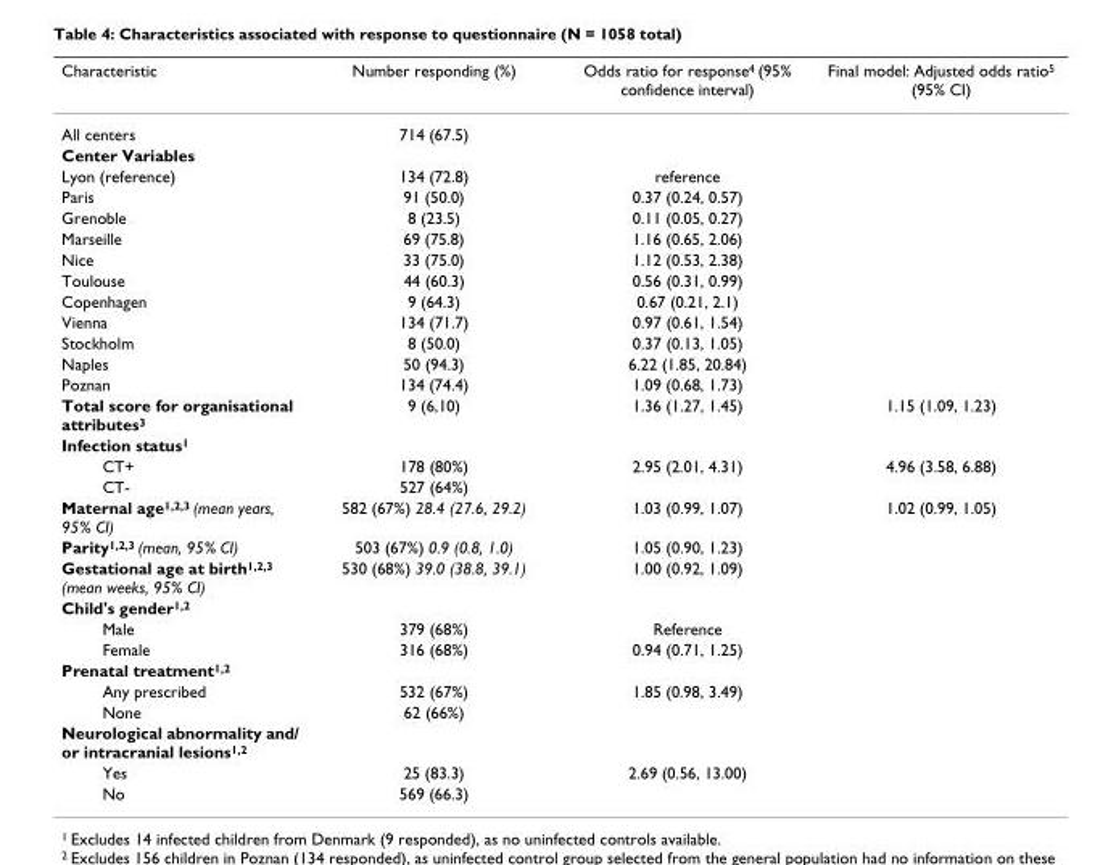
<table><thead><tr><td>Characteristic</td><td>Number responding (%)</td><td>Odds ratio for response<sup>4</sup> (95% confidence interval)</td><td>Final model: Adjusted odds ratio<sup>5</sup> (95% CI)</td></tr></thead><tbody><tr><td>All centers</td><td>714 (67.5)</td><td></td><td></td></tr><tr><td colspan="4">Center Variables</td></tr><tr><td>Lyon (reference)</td><td>134 (72.8)</td><td>reference</td><td></td></tr><tr><td>Paris</td><td>91 (50.0)</td><td>0.37 (0.24, 0.57)</td><td></td></tr><tr><td>Grenoble</td><td>8 (23.5)</td><td>0.11 (0.05, 0.27)</td><td></td></tr><tr><td>Marseille</td><td>69 (75.8)</td><td>1.16 (0.65, 2.06)</td><td></td></tr><tr><td>Nice</td><td>33 (75.0)</td><td>1.12 (0.53, 2.38)</td><td></td></tr><tr><td>Toulouse</td><td>44 (60.3)</td><td>0.56 (0.31, 0.99)</td><td></td></tr><tr><td>Copenhagen</td><td>9 (64.3)</td><td>0.67 (0.21, 2.1)</td><td></td></tr><tr><td>Vienna</td><td>134 (71.7)</td><td>0.97 (0.61, 1.54)</td><td></td></tr><tr><td>Stockholm</td><td>8 (50.0)</td><td>0.37 (0.13, 1.05)</td><td></td></tr><tr><td>Naples</td><td>50 (94.3)</td><td>6.22 (1.85, 20.84)</td><td></td></tr><tr><td>Poznan</td><td>134 (74.4)</td><td>1.09 (0.68, 1.73)</td><td></td></tr><tr><td>Total score for organisational attributes<sup>3</sup></td><td>9 (6,10)</td><td>1.36 (1.27, 1.45)</td><td>1.15 (1.09, 1.23)</td></tr><tr><td colspan="4">Infection status<sup>1</sup></td></tr><tr><td>CT+</td><td>178 (80%)</td><td>2.95 (2.01, 4.31)</td><td>4.96 (3.58, 6.88)</td></tr><tr><td>CT-</td><td>527 (64%)</td><td></td><td></td></tr><tr><td>Maternal age<sup>1,2,3</sup> (mean years, 95% CI)</td><td>582 (67%) 28.4 (27.6, 29.2)</td><td>1.03 (0.99, 1.07)</td><td>1.02 (0.99, 1.05)</td></tr><tr><td>Parity<sup>1,2,3</sup> (mean, 95% CI)</td><td>503 (67%) 0.9 (0.8, 1.0)</td><td>1.05 (0.90, 1.23)</td><td></td></tr><tr><td>Gestational age at birth<sup>1,2,3</sup> (mean weeks, 95% CI)</td><td>530 (68%) 39.0 (38.8, 39.1)</td><td>1.00 (0.92, 1.09)</td><td></td></tr><tr><td colspan="4">Child&#x27;s gender<sup>1,2</sup></td></tr><tr><td>Male</td><td>379 (68%)</td><td>Reference</td><td></td></tr><tr><td>Female</td><td>316 (68%)</td><td>0.94 (0.71, 1.25)</td><td></td></tr><tr><td colspan="4">Prenatal treatment<sup>1,2</sup></td></tr><tr><td>Any prescribed</td><td>532 (67%)</td><td>1.85 (0.98, 3.49)</td><td></td></tr><tr><td>None</td><td>62 (66%)</td><td></td><td></td></tr><tr><td colspan="4">Neurological abnormality and/ or intracranial lesions<sup>1,2</sup></td></tr><tr><td>Yes</td><td>25 (83.3)</td><td>2.69 (0.56, 13.00)</td><td></td></tr><tr><td>No</td><td>569 (66.3)</td><td></td><td></td></tr></tbody></table>